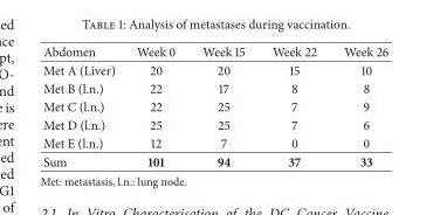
<table><thead><tr><td>Abdomen</td><td>Week 0</td><td>Week 15</td><td>Week 22</td><td>Week 26</td></tr></thead><tbody><tr><td>Met A (Liver)</td><td>20</td><td>20</td><td>15</td><td>10</td></tr><tr><td>Met B (l.n.)</td><td>22</td><td>17</td><td>8</td><td>8</td></tr><tr><td>Met C (l.n.)</td><td>22</td><td>25</td><td>7</td><td>9</td></tr><tr><td>Met D (l.n.)</td><td>25</td><td>25</td><td>7</td><td>6</td></tr><tr><td>Met E (l.n.)</td><td>12</td><td>7</td><td>0</td><td>0</td></tr><tr><td>Sum</td><td>101</td><td>94</td><td>37</td><td>33</td></tr></tbody></table>